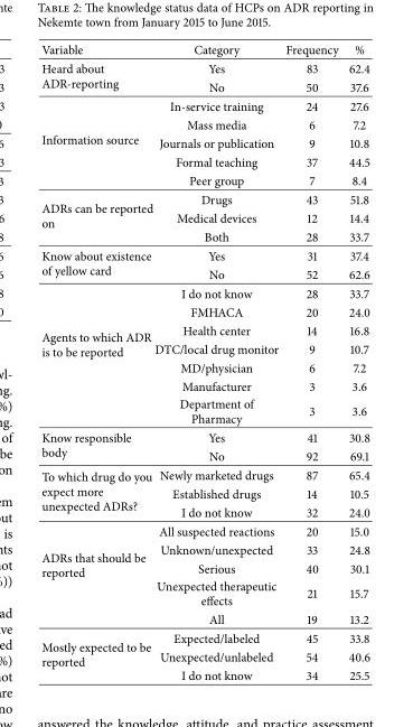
<table><thead><tr><td>Variable</td><td>Category</td><td>Frequency</td><td>%</td></tr></thead><tbody><tr><td rowspan="2">Heard about ADR-reporting</td><td>Yes</td><td>83</td><td>62.4</td></tr><tr><td>No</td><td>50</td><td>37.6</td></tr><tr><td rowspan="5">Information source</td><td>In-service training</td><td>24</td><td>27.6</td></tr><tr><td>Mass media</td><td>6</td><td>7.2</td></tr><tr><td>Journals or publication</td><td>9</td><td>10.8</td></tr><tr><td>Formal teaching</td><td>37</td><td>44.5</td></tr><tr><td>Peer group</td><td>7</td><td>8.4</td></tr><tr><td rowspan="3">ADRs can be reported on</td><td>Drugs</td><td>43</td><td>51.8</td></tr><tr><td>Medical devices</td><td>12</td><td>14.4</td></tr><tr><td>Both</td><td>28</td><td>33.7</td></tr><tr><td rowspan="2">Know about existence of yellow card</td><td>Yes</td><td>31</td><td>37.4</td></tr><tr><td>No</td><td>52</td><td>62.6</td></tr><tr><td rowspan="7">Agents to which ADR is to be reported</td><td>I do not know</td><td>28</td><td>33.7</td></tr><tr><td>FMHACA</td><td>20</td><td>24.0</td></tr><tr><td>Health center</td><td>14</td><td>16.8</td></tr><tr><td>DTC/local drug monitor</td><td>9</td><td>10.7</td></tr><tr><td>MD/physician</td><td>6</td><td>7.2</td></tr><tr><td>Manufacturer</td><td>3</td><td>3.6</td></tr><tr><td>Department of Pharmacy</td><td>3</td><td>3.6</td></tr><tr><td rowspan="2">Know responsible body</td><td>Yes</td><td>41</td><td>30.8</td></tr><tr><td>No</td><td>92</td><td>69.1</td></tr><tr><td rowspan="3">To which drug do you expect more unexpected ADRs?</td><td>Newly marketed drugs</td><td>87</td><td>65.4</td></tr><tr><td>Established drugs</td><td>14</td><td>10.5</td></tr><tr><td>I do not know</td><td>32</td><td>24.0</td></tr><tr><td rowspan="5">ADRs that should be reported</td><td>All suspected reactions</td><td>20</td><td>15.0</td></tr><tr><td>Unknown/unexpected</td><td>33</td><td>24.8</td></tr><tr><td>Serious</td><td>40</td><td>30.1</td></tr><tr><td>Unexpected therapeutic effects</td><td>21</td><td>15.7</td></tr><tr><td>All</td><td>19</td><td>13.2</td></tr><tr><td rowspan="3">Mostly expected to be reported</td><td>Expected/labeled</td><td>45</td><td>33.8</td></tr><tr><td>Unexpected/unlabeled</td><td>54</td><td>40.6</td></tr><tr><td>I do not know</td><td>34</td><td>25.5</td></tr></tbody></table>